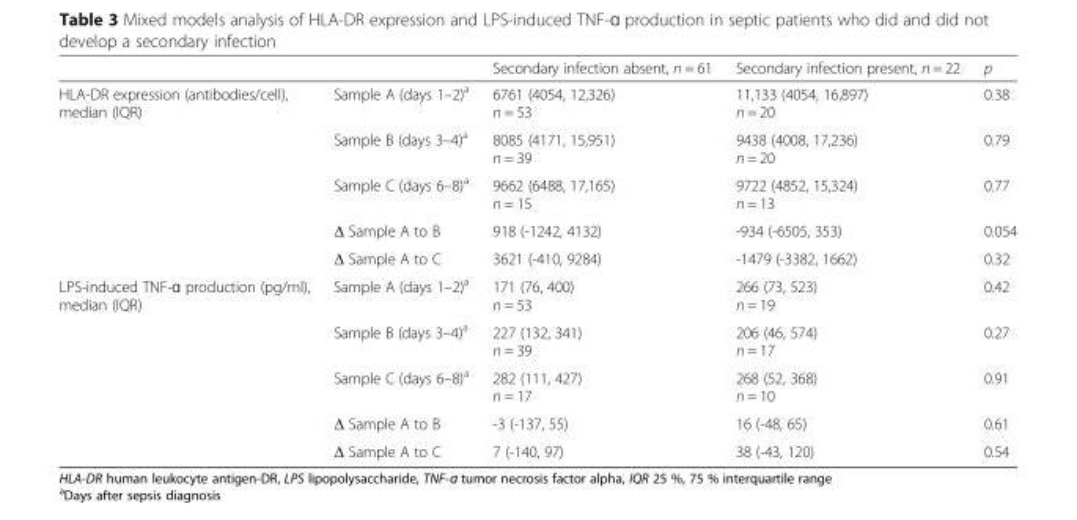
<table><thead><tr><td></td><td></td><td>Secondary infection absent, n = 61</td><td>Secondary infection present, n = 22</td><td>p</td></tr></thead><tbody><tr><td rowspan="5">HLA-DR expression (antibodies/cell), median (IQR)</td><td>Sample A (days 1–2)<sup>a</sup></td><td>6761 (4054, 12,326) n = 53</td><td>11,133 (4054, 16,897) n = 20</td><td>0.38</td></tr><tr><td>Sample B (days 3–4)<sup>a</sup></td><td>8085 (4171, 15,951) n = 39</td><td>9438 (4008, 17,236) n = 20</td><td>0.79</td></tr><tr><td>Sample C (days 6–8)<sup>a</sup></td><td>9662 (6488, 17,165) n = 15</td><td>9722 (4852, 15,324) n = 13</td><td>0.77</td></tr><tr><td>Δ Sample A to B</td><td>918 (-1242, 4132)</td><td>-934 (-6505, 353)</td><td>0.054</td></tr><tr><td>Δ Sample A to C</td><td>3621 (-410, 9284)</td><td>-1479 (-3382, 1662)</td><td>0.32</td></tr><tr><td rowspan="5">LPS-induced TNF-ɑ production (pg/ml), median (IQR)</td><td>Sample A (days 1–2)<sup>a</sup></td><td>171 (76, 400) n = 53</td><td>266 (73, 523) n = 19</td><td>0.42</td></tr><tr><td>Sample B (days 3–4)<sup>a</sup></td><td>227 (132, 341) n = 39</td><td>206 (46, 574) n = 17</td><td>0.27</td></tr><tr><td>Sample C (days 6–8)<sup>a</sup></td><td>282 (111, 427) n = 17</td><td>268 (52, 368) n = 10</td><td>0.91</td></tr><tr><td>Δ Sample A to B</td><td>-3 (-137, 55)</td><td>16 (-48, 65)</td><td>0.61</td></tr><tr><td>Δ Sample A to C</td><td>7 (-140, 97)</td><td>38 (-43, 120)</td><td>0.54</td></tr></tbody></table>